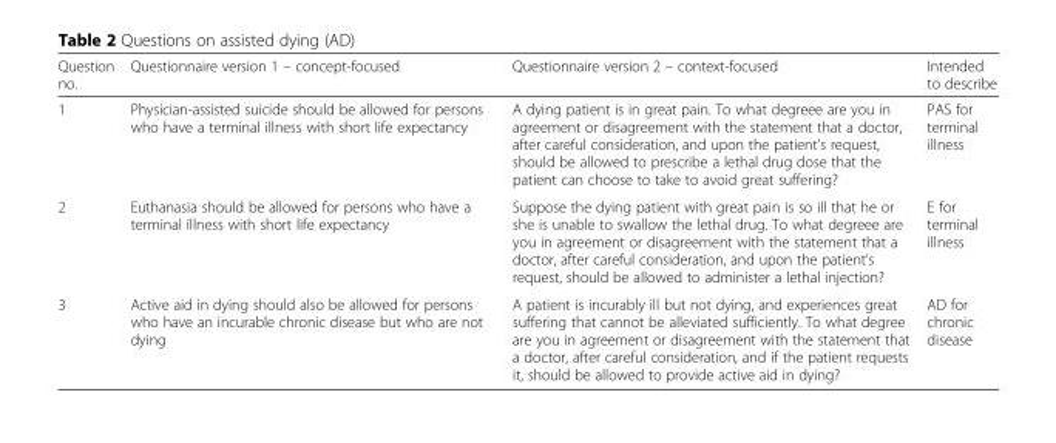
<table><thead><tr><td>Question no.</td><td>Questionnaire version 1 – concept-focused</td><td>Questionnaire version 2 – context-focused</td><td>Intended to describe</td></tr></thead><tbody><tr><td>1</td><td>Physician-assisted suicide should be allowed for persons who have a terminal illness with short life expectancy</td><td>A dying patient is in great pain. To what degreee are you in agreement or disagreement with the statement that a doctor, after careful consideration, and upon the patient’s request, should be allowed to prescribe a lethal drug dose that the patient can choose to take to avoid great suffering?</td><td>PAS for terminal illness</td></tr><tr><td>2</td><td>Euthanasia should be allowed for persons who have a terminal illness with short life expectancy</td><td>Suppose the dying patient with great pain is so ill that he or she is unable to swallow the lethal drug. To what degreee are you in agreement or disagreement with the statement that a doctor, after careful consideration, and upon the patient’s request, should be allowed to administer a lethal injection?</td><td>E for terminal illness</td></tr><tr><td>3</td><td>Active aid in dying should also be allowed for persons who have an incurable chronic disease but who are not dying</td><td>A patient is incurably ill but not dying, and experiences great suffering that cannot be alleviated sufficiently. To what degree are you in agreement or disagreement with the statement that a doctor, after careful consideration, and if the patient requests it, should be allowed to provide active aid in dying?</td><td>AD for chronic disease</td></tr></tbody></table>